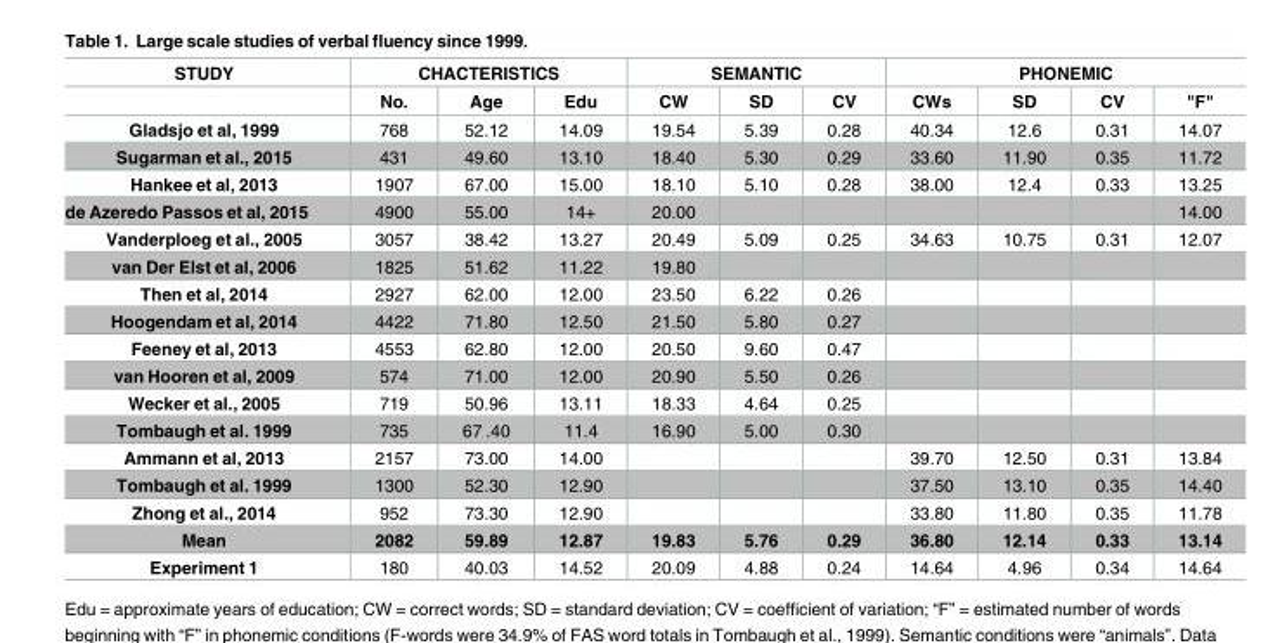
<table><thead><tr><td rowspan="2">STUDY</td><td colspan="3">CHACTERISTICS</td><td colspan="3">SEMANTIC</td><td colspan="4">PHONEMIC</td></tr><tr><td>No.</td><td>Age</td><td>Edu</td><td>CW</td><td>SD</td><td>CV</td><td>CWs</td><td>SD</td><td>CV</td><td>&quot;F&quot;</td></tr></thead><tbody><tr><td>Gladsjo et al, 1999</td><td>768</td><td>52.12</td><td>14.09</td><td>19.54</td><td>5.39</td><td>0.28</td><td>40.34</td><td>12.6</td><td>0.31</td><td>14.07</td></tr><tr><td>Sugarman et al., 2015</td><td>431</td><td>49.60</td><td>13.10</td><td>18.40</td><td>5.30</td><td>0.29</td><td>33.60</td><td>11.90</td><td>0.35</td><td>11.72</td></tr><tr><td>Hankee et al, 2013</td><td>1907</td><td>67.00</td><td>15.00</td><td>18.10</td><td>5.10</td><td>0.28</td><td>38.00</td><td>12.4</td><td>0.33</td><td>13.25</td></tr><tr><td>de Azeredo Passos et al, 2015</td><td>4900</td><td>55.00</td><td>14+</td><td>20.00</td><td></td><td></td><td></td><td></td><td></td><td>14.00</td></tr><tr><td>Vanderploeg et al., 2005</td><td>3057</td><td>38.42</td><td>13.27</td><td>20.49</td><td>5.09</td><td>0.25</td><td>34.63</td><td>10.75</td><td>0.31</td><td>12.07</td></tr><tr><td>van Der Elst et al, 2006</td><td>1825</td><td>51.62</td><td>11.22</td><td>19.80</td><td></td><td></td><td></td><td></td><td></td><td></td></tr><tr><td>Then et al, 2014</td><td>2927</td><td>62.00</td><td>12.00</td><td>23.50</td><td>6.22</td><td>0.26</td><td></td><td></td><td></td><td></td></tr><tr><td>Hoogendam et al, 2014</td><td>4422</td><td>71.80</td><td>12.50</td><td>21.50</td><td>5.80</td><td>0.27</td><td></td><td></td><td></td><td></td></tr><tr><td>Feeney et al, 2013</td><td>4553</td><td>62.80</td><td>12.00</td><td>20.50</td><td>9.60</td><td>0.47</td><td></td><td></td><td></td><td></td></tr><tr><td>van Hooren et al, 2009</td><td>574</td><td>71.00</td><td>12.00</td><td>20.90</td><td>5.50</td><td>0.26</td><td></td><td></td><td></td><td></td></tr><tr><td>Wecker et al., 2005</td><td>719</td><td>50.96</td><td>13.11</td><td>18.33</td><td>4.64</td><td>0.25</td><td></td><td></td><td></td><td></td></tr><tr><td>Tombaugh et al. 1999</td><td>735</td><td>67 .40</td><td>11.4</td><td>16.90</td><td>5.00</td><td>0.30</td><td></td><td></td><td></td><td></td></tr><tr><td>Ammann et al, 2013</td><td>2157</td><td>73.00</td><td>14.00</td><td></td><td></td><td></td><td>39.70</td><td>12.50</td><td>0.31</td><td>13.84</td></tr><tr><td>Tombaugh et al. 1999</td><td>1300</td><td>52.30</td><td>12.90</td><td></td><td></td><td></td><td>37.50</td><td>13.10</td><td>0.35</td><td>14.40</td></tr><tr><td>Zhong et al., 2014</td><td>952</td><td>73.30</td><td>12.90</td><td></td><td></td><td></td><td>33.80</td><td>11.80</td><td>0.35</td><td>11.78</td></tr><tr><td>Mean</td><td>2082</td><td>59.89</td><td>12.87</td><td>19.83</td><td>5.76</td><td>0.29</td><td>36.80</td><td>12.14</td><td>0.33</td><td>13.14</td></tr><tr><td>Experiment 1</td><td>180</td><td>40.03</td><td>14.52</td><td>20.09</td><td>4.88</td><td>0.24</td><td>14.64</td><td>4.96</td><td>0.34</td><td>14.64</td></tr></tbody></table>